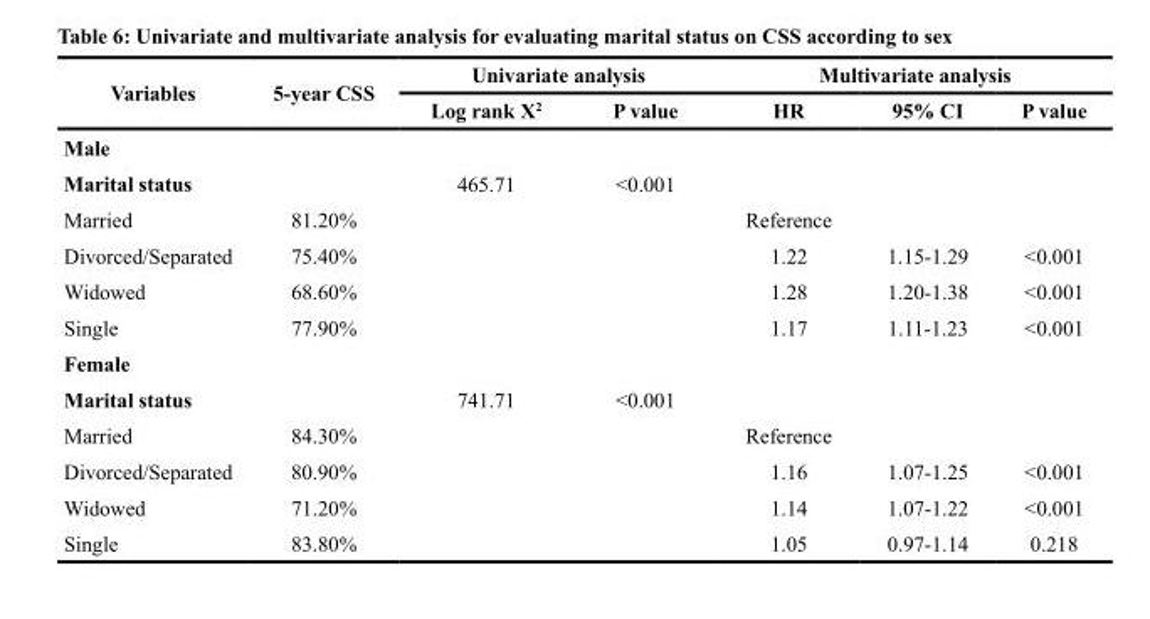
<table><thead><tr><td rowspan="2">Variables</td><td rowspan="2">5-year CSS</td><td colspan="2">Univariate analysis</td><td colspan="3">Multivariate analysis</td></tr><tr><td>Log rank Χ<sup>2</sup></td><td>P value</td><td>HR</td><td>95% CI</td><td>P value</td></tr></thead><tbody><tr><td colspan="7">Male</td></tr><tr><td>Marital status</td><td></td><td>465.71</td><td>&lt;0.001</td><td></td><td></td><td></td></tr><tr><td>Married</td><td>81.20%</td><td></td><td></td><td>Reference</td><td></td><td></td></tr><tr><td>Divorced/Separated</td><td>75.40%</td><td></td><td></td><td>1.22</td><td>1.15-1.29</td><td>&lt;0.001</td></tr><tr><td>Widowed</td><td>68.60%</td><td></td><td></td><td>1.28</td><td>1.20-1.38</td><td>&lt;0.001</td></tr><tr><td>Single</td><td>77.90%</td><td></td><td></td><td>1.17</td><td>1.11-1.23</td><td>&lt;0.001</td></tr><tr><td colspan="7">Female</td></tr><tr><td>Marital status</td><td></td><td>741.71</td><td>&lt;0.001</td><td></td><td></td><td></td></tr><tr><td>Married</td><td>84.30%</td><td></td><td></td><td>Reference</td><td></td><td></td></tr><tr><td>Divorced/Separated</td><td>80.90%</td><td></td><td></td><td>1.16</td><td>1.07-1.25</td><td>&lt;0.001</td></tr><tr><td>Widowed</td><td>71.20%</td><td></td><td></td><td>1.14</td><td>1.07-1.22</td><td>&lt;0.001</td></tr><tr><td>Single</td><td>83.80%</td><td></td><td></td><td>1.05</td><td>0.97-1.14</td><td>0.218</td></tr></tbody></table>